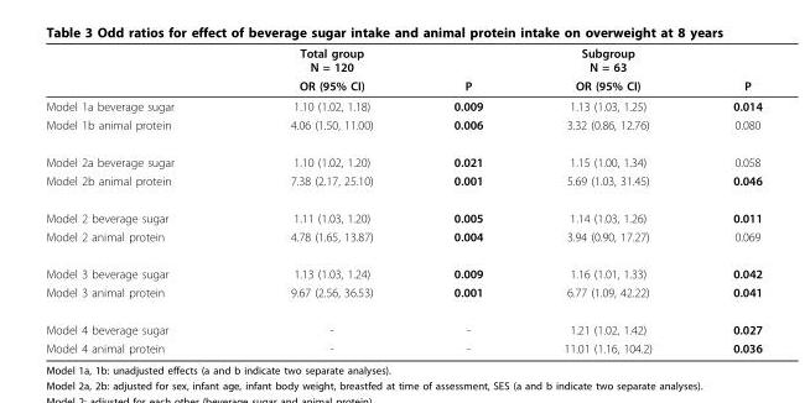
<table><thead><tr><td rowspan="2"></td><td rowspan="2">Total group N = 120 OR (95% CI)</td><td rowspan="2">P</td><td rowspan="2">Subgroup N = 63 OR (95% CI)</td><td rowspan="2">P</td></tr><tr></tr></thead><tbody><tr><td>Model 1a beverage sugar</td><td>1.10 (1.02, 1.18)</td><td>0.009</td><td>1.13 (1.03, 1.25)</td><td>0.014</td></tr><tr><td>Model 1b animal protein</td><td>4.06 (1.50, 11.00)</td><td>0.006</td><td>3.32 (0.86, 12.76)</td><td>0.080</td></tr><tr><td>Model 2a beverage sugar</td><td>1.10 (1.02, 1.20)</td><td>0.021</td><td>1.15 (1.00, 1.34)</td><td>0.058</td></tr><tr><td>Model 2b animal protein</td><td>7.38 (2.17, 25.10)</td><td>0.001</td><td>5.69 (1.03, 31.45)</td><td>0.046</td></tr><tr><td>Model 2 beverage sugar</td><td>1.11 (1.03, 1.20)</td><td>0.005</td><td>1.14 (1.03, 1.26)</td><td>0.011</td></tr><tr><td>Model 2 animal protein</td><td>4.78 (1.65, 13.87)</td><td>0.004</td><td>3.94 (0.90, 17.27)</td><td>0.069</td></tr><tr><td>Model 3 beverage sugar</td><td>1.13 (1.03, 1.24)</td><td>0.009</td><td>1.16 (1.01, 1.33)</td><td>0.042</td></tr><tr><td>Model 3 animal protein</td><td>9.67 (2.56, 36.53)</td><td>0.001</td><td>6.77 (1.09, 42.22)</td><td>0.041</td></tr><tr><td>Model 4 beverage sugar</td><td>-</td><td>-</td><td>1.21 (1.02, 1.42)</td><td>0.027</td></tr><tr><td>Model 4 animal protein</td><td>-</td><td>-</td><td>11.01 (1.16, 104.2)</td><td>0.036</td></tr></tbody></table>